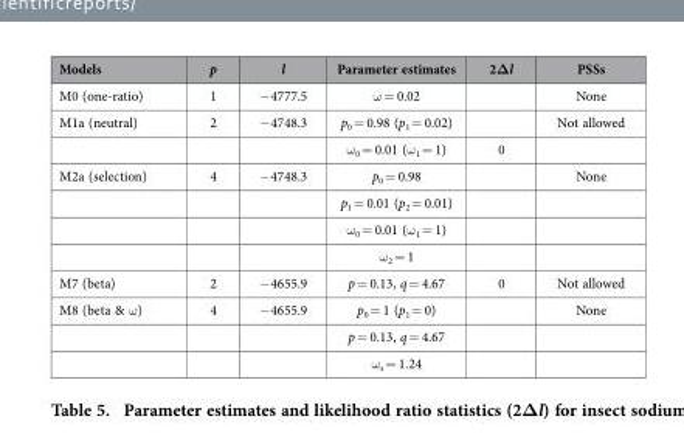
<table><thead><tr><td>Models</td><td>p</td><td>l</td><td>Parameter estimates</td><td>2Δl</td><td>PSSs</td></tr></thead><tbody><tr><td>M0 (one-ratio)</td><td>1</td><td>− 4777.5</td><td>ω = 0.02</td><td></td><td>None</td></tr><tr><td rowspan="2">M1a (neutral)</td><td>2</td><td>− 4748.3</td><td>p<sub>0</sub> = 0.98 (p<sub>1</sub> = 0.02)</td><td></td><td>Not allowed</td></tr><tr><td></td><td></td><td>ω <sub>0</sub> = 0.01 (ω <sub>1</sub> = 1)</td><td>0</td><td></td></tr><tr><td rowspan="4">M2a (selection)</td><td>4</td><td>− 4748.3</td><td>p<sub>0</sub> = 0.98</td><td></td><td>None</td></tr><tr><td></td><td></td><td>p<sub>1</sub> = 0.01 (p<sub>2</sub> = 0.01)</td><td></td><td></td></tr><tr><td></td><td></td><td>ω <sub>0</sub> = 0.01 (ω <sub>1</sub> = 1)</td><td></td><td></td></tr><tr><td></td><td></td><td>ω <sub>2</sub> = 1</td><td></td><td></td></tr><tr><td>M7 (beta)</td><td>2</td><td>− 4655.9</td><td>p = 0.13, q = 4.67</td><td>0</td><td>Not allowed</td></tr><tr><td rowspan="3">M8 (beta &amp; ω )</td><td>4</td><td>− 4655.9</td><td>p<sub>0</sub> = 1 (p<sub>1</sub> = 0)</td><td></td><td>None</td></tr><tr><td></td><td></td><td>p = 0.13, q = 4.67</td><td></td><td></td></tr><tr><td></td><td></td><td>ω <sub>s</sub> = 1.24</td><td></td><td></td></tr></tbody></table>